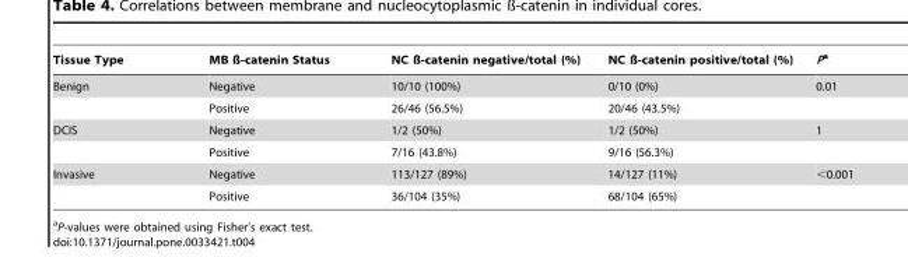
<table><thead><tr><td>Tissue Type</td><td>MB ß-catenin Status</td><td>NC ß-catenin negative/total (%)</td><td>NC ß-catenin positive/total (%)</td><td>Pa</td></tr></thead><tbody><tr><td rowspan="2">Benign</td><td>Negative</td><td>10/10 (100%)</td><td>0/10 (0%)</td><td>0.01</td></tr><tr><td>Positive</td><td>26/46 (56.5%)</td><td>20/46 (43.5%)</td><td></td></tr><tr><td rowspan="2">DCIS</td><td>Negative</td><td>1/2 (50%)</td><td>1/2 (50%)</td><td>1</td></tr><tr><td>Positive</td><td>7/16 (43.8%)</td><td>9/16 (56.3%)</td><td></td></tr><tr><td rowspan="2">Invasive</td><td>Negative</td><td>113/127 (89%)</td><td>14/127 (11%)</td><td>&lt;0.001</td></tr><tr><td>Positive</td><td>36/104 (35%)</td><td>68/104 (65%)</td><td></td></tr></tbody></table>